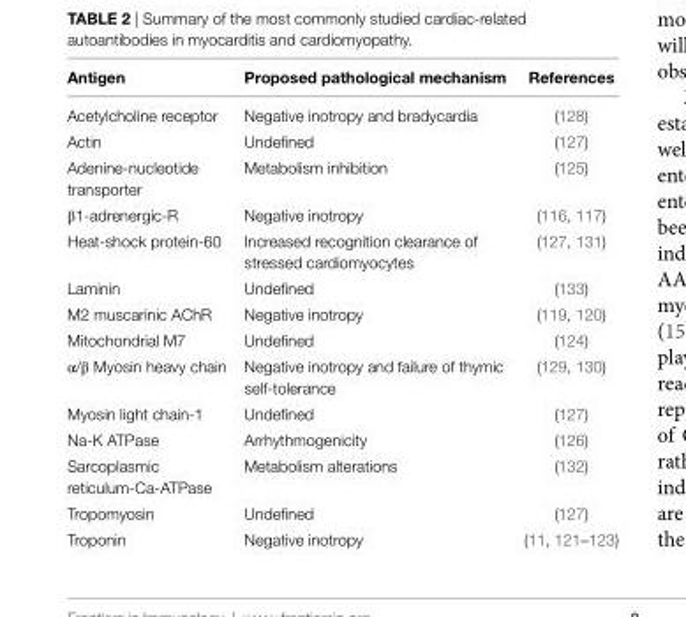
<table><thead><tr><td>Antigen</td><td>Proposed pathological mechanism</td><td>References</td></tr></thead><tbody><tr><td>Acetylcholine receptor</td><td>Negative inotropy and bradycardia</td><td>(128)</td></tr><tr><td>Actin</td><td>Undefined</td><td>(127)</td></tr><tr><td>Adenine-nucleotide transporter</td><td>Metabolism inhibition</td><td>(125)</td></tr><tr><td>β1-adrenergic-R</td><td>Negative inotropy</td><td>(116, 117)</td></tr><tr><td>Heat-shock protein-60</td><td>Increased recognition clearance of stressed cardiomyocytes</td><td>(127, 131)</td></tr><tr><td>Laminin</td><td>Undefined</td><td>(133)</td></tr><tr><td>M2 muscarinic AChR</td><td>Negative inotropy</td><td>(119, 120)</td></tr><tr><td>Mitochondrial M7</td><td>Undefined</td><td>(124)</td></tr><tr><td>α/β Myosin heavy chain</td><td>Negative inotropy and failure of thymic self-tolerance</td><td>(129, 130)</td></tr><tr><td>Myosin light chain-1</td><td>Undefined</td><td>(127)</td></tr><tr><td>Na-K ATPase</td><td>Arrhythmogenicity</td><td>(126)</td></tr><tr><td>Sarcoplasmic reticulum-Ca-ATPase</td><td>Metabolism alterations</td><td>(132)</td></tr><tr><td>Tropomyosin</td><td>Undefined</td><td>(127)</td></tr><tr><td>Troponin</td><td>Negative inotropy</td><td>(11, 121–123)</td></tr></tbody></table>